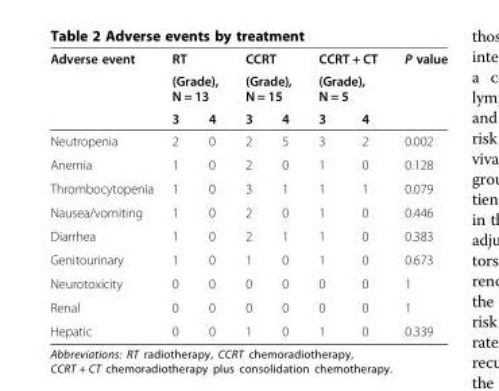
<table><thead><tr><td rowspan="3">Adverse event</td><td rowspan="2" colspan="2">RT (Grade), N = 13</td><td rowspan="2" colspan="2">CCRT (Grade), N = 15</td><td rowspan="2" colspan="2">CCRT + CT (Grade), N = 5</td><td rowspan="3">P value</td></tr><tr></tr><tr><td>3</td><td>4</td><td>3</td><td>4</td><td>3</td><td>4</td></tr></thead><tbody><tr><td>Neutropenia</td><td>2</td><td>0</td><td>2</td><td>5</td><td>3</td><td>2</td><td>0.002</td></tr><tr><td>Anemia</td><td>1</td><td>0</td><td>2</td><td>0</td><td>1</td><td>0</td><td>0.128</td></tr><tr><td>Thrombocytopenia</td><td>1</td><td>0</td><td>3</td><td>1</td><td>1</td><td>1</td><td>0.079</td></tr><tr><td>Nausea/vomiting</td><td>1</td><td>0</td><td>2</td><td>0</td><td>1</td><td>0</td><td>0.446</td></tr><tr><td>Diarrhea</td><td>1</td><td>0</td><td>2</td><td>1</td><td>1</td><td>0</td><td>0.383</td></tr><tr><td>Genitourinary</td><td>1</td><td>0</td><td>1</td><td>0</td><td>1</td><td>0</td><td>0.673</td></tr><tr><td>Neurotoxicity</td><td>0</td><td>0</td><td>0</td><td>0</td><td>0</td><td>0</td><td>1</td></tr><tr><td>Renal</td><td>0</td><td>0</td><td>0</td><td>0</td><td>0</td><td>0</td><td>1</td></tr><tr><td>Hepatic</td><td>0</td><td>0</td><td>1</td><td>0</td><td>1</td><td>0</td><td>0.339</td></tr></tbody></table>